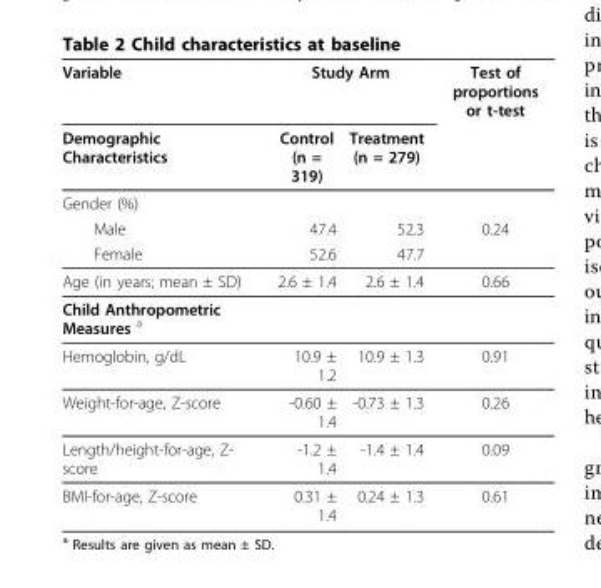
<table><thead><tr><td rowspan="2">Variable Demographic Characteristics</td><td colspan="2">Study Arm</td><td rowspan="2">Test of proportions or t-test</td></tr><tr><td>Control (n = 319)</td><td>Treatment (n = 279)</td></tr></thead><tbody><tr><td colspan="4">Gender (%)</td></tr><tr><td>Male</td><td>47.4</td><td>52.3</td><td>0.24</td></tr><tr><td>Female</td><td>52.6</td><td>47.7</td><td></td></tr><tr><td>Age (in years; mean ± SD)</td><td>2.6 ± 1.4</td><td>2.6 ± 1.4</td><td>0.66</td></tr><tr><td colspan="4">Child Anthropometric Measures <sup>a</sup></td></tr><tr><td>Hemoglobin, g/dL</td><td>10.9 ± 1.2</td><td>10.9 ± 1.3</td><td>0.91</td></tr><tr><td>Weight-for-age, Z-score</td><td>-0.60 ± 1.4</td><td>-0.73 ± 1.3</td><td>0.26</td></tr><tr><td>Length/height-for-age, Z- score</td><td>-1.2 ± 1.4</td><td>-1.4 ± 1.4</td><td>0.09</td></tr><tr><td>BMI-for-age, Z-score</td><td>0.31 ± 1.4</td><td>0.24 ± 1.3</td><td>0.61</td></tr></tbody></table>